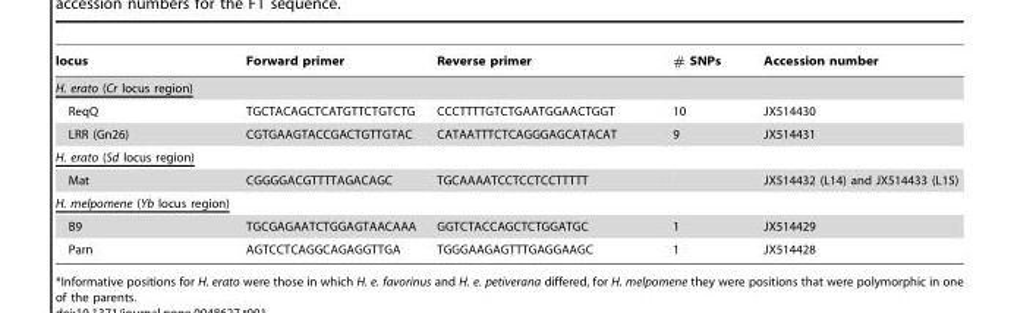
<table><thead><tr><td>locus</td><td>Forward primer</td><td>Reverse primer</td><td># SNPs</td><td>Accession number</td></tr></thead><tbody><tr><td colspan="5">H. erato (Cr locus region)</td></tr><tr><td>ReqQ</td><td>TGCTACAGCTCATGTTCTGTCTG</td><td>CCCTTTTGTCTGAATGGAACTGGT</td><td>10</td><td>JX514430</td></tr><tr><td>LRR (Gn26)</td><td>CGTGAAGTACCGACTGTTGTAC</td><td>CATAATTTCTCAGGGAGCATACAT</td><td>9</td><td>JX514431</td></tr><tr><td colspan="5">H. erato (Sd locus region)</td></tr><tr><td>Mat</td><td>CGGGGACGTTTTAGACAGC</td><td>TGCAAAATCCTCCTCCTTTTT</td><td></td><td>JX514432 (L14) and JX514433 (L15)</td></tr><tr><td colspan="5">H. melpomene (Yb locus region)</td></tr><tr><td>B9</td><td>TGCGAGAATCTGGAGTAACAAA</td><td>GGTCTACCAGCTCTGGATGC</td><td>1</td><td>JX514429</td></tr><tr><td>Parn</td><td>AGTCCTCAGGCAGAGGTTGA</td><td>TGGGAAGAGTTTGAGGAAGC</td><td>1</td><td>JX514428</td></tr></tbody></table>